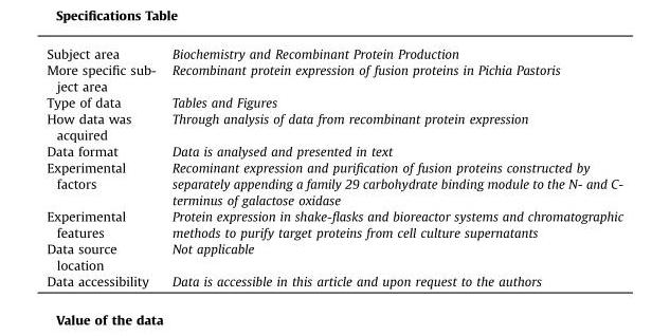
<table><tbody><tr><td>Subject area</td><td>Biochemistry and Recombinant Protein Production</td></tr><tr><td>More specific sub- ject area</td><td>Recombinant protein expression of fusion proteins in Pichia Pastoris</td></tr><tr><td>Type of data</td><td>Tables and Figures</td></tr><tr><td>How data was acquired</td><td>Through analysis of data from recombinant protein expression</td></tr><tr><td>Data format</td><td>Data is analysed and presented in text</td></tr><tr><td>Experimental factors</td><td>Recominant expression and purification of fusion proteins constructed by separately appending a family 29 carbohydrate binding module to the N- and C- terminus of galactose oxidase</td></tr><tr><td>Experimental features</td><td>Protein expression in shake-flasks and bioreactor systems and chromatographic methods to purify target proteins from cell culture supernatants</td></tr><tr><td>Data source location</td><td>Not applicable</td></tr><tr><td>Data accessibility</td><td>Data is accessible in this article and upon request to the authors</td></tr></tbody></table>